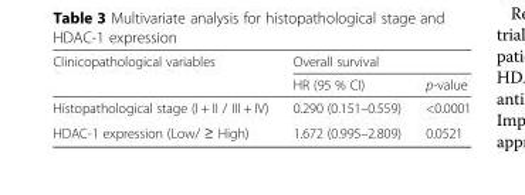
<table><thead><tr><td rowspan="2">Clinicopathological variables</td><td colspan="2">Overall survival</td></tr><tr><td>HR (95 % CI)</td><td>p-value</td></tr></thead><tbody><tr><td>Histopathological stage (I + II / III + IV)</td><td>0.290 (0.151–0.559)</td><td>&lt;0.0001</td></tr><tr><td>HDAC-1 expression (Low/ ≥ High)</td><td>1.672 (0.995–2.809)</td><td>0.0521</td></tr></tbody></table>